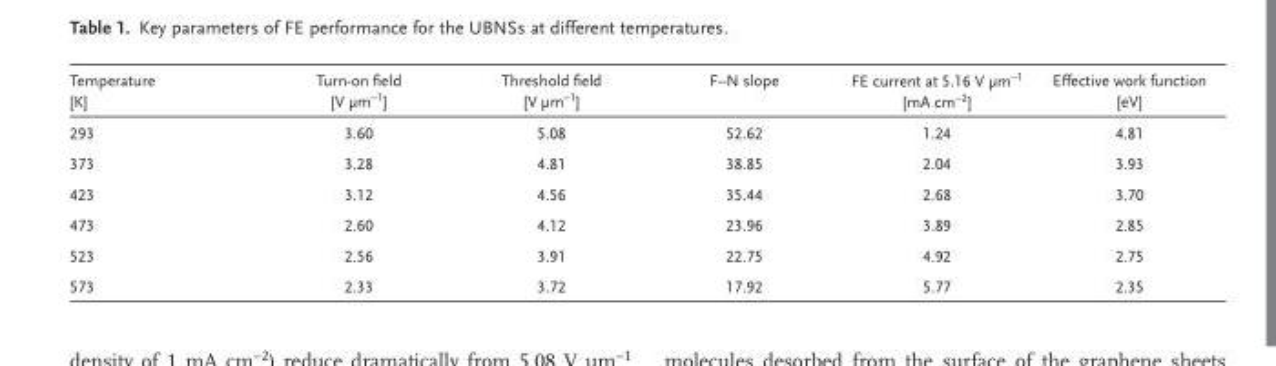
<table><thead><tr><td>Temperature [K]</td><td>Turn-on fi eld [V µm <sup>−1</sup> ]</td><td>Threshold fi eld [V µm <sup>−1</sup> ]</td><td>F–N slope</td><td>FE current at 5.16 V µm <sup>−1</sup> [mA cm <sup>−2</sup> ]</td><td>Effective work function [eV]</td></tr></thead><tbody><tr><td>293</td><td>3.60</td><td>5.08</td><td>52.62</td><td>1.24</td><td>4.81</td></tr><tr><td>373</td><td>3.28</td><td>4.81</td><td>38.85</td><td>2.04</td><td>3.93</td></tr><tr><td>423</td><td>3.12</td><td>4.56</td><td>35.44</td><td>2.68</td><td>3.70</td></tr><tr><td>473</td><td>2.60</td><td>4.12</td><td>23.96</td><td>3.89</td><td>2.85</td></tr><tr><td>523</td><td>2.56</td><td>3.91</td><td>22.75</td><td>4.92</td><td>2.75</td></tr><tr><td>573</td><td>2.33</td><td>3.72</td><td>17.92</td><td>5.77</td><td>2.35</td></tr></tbody></table>